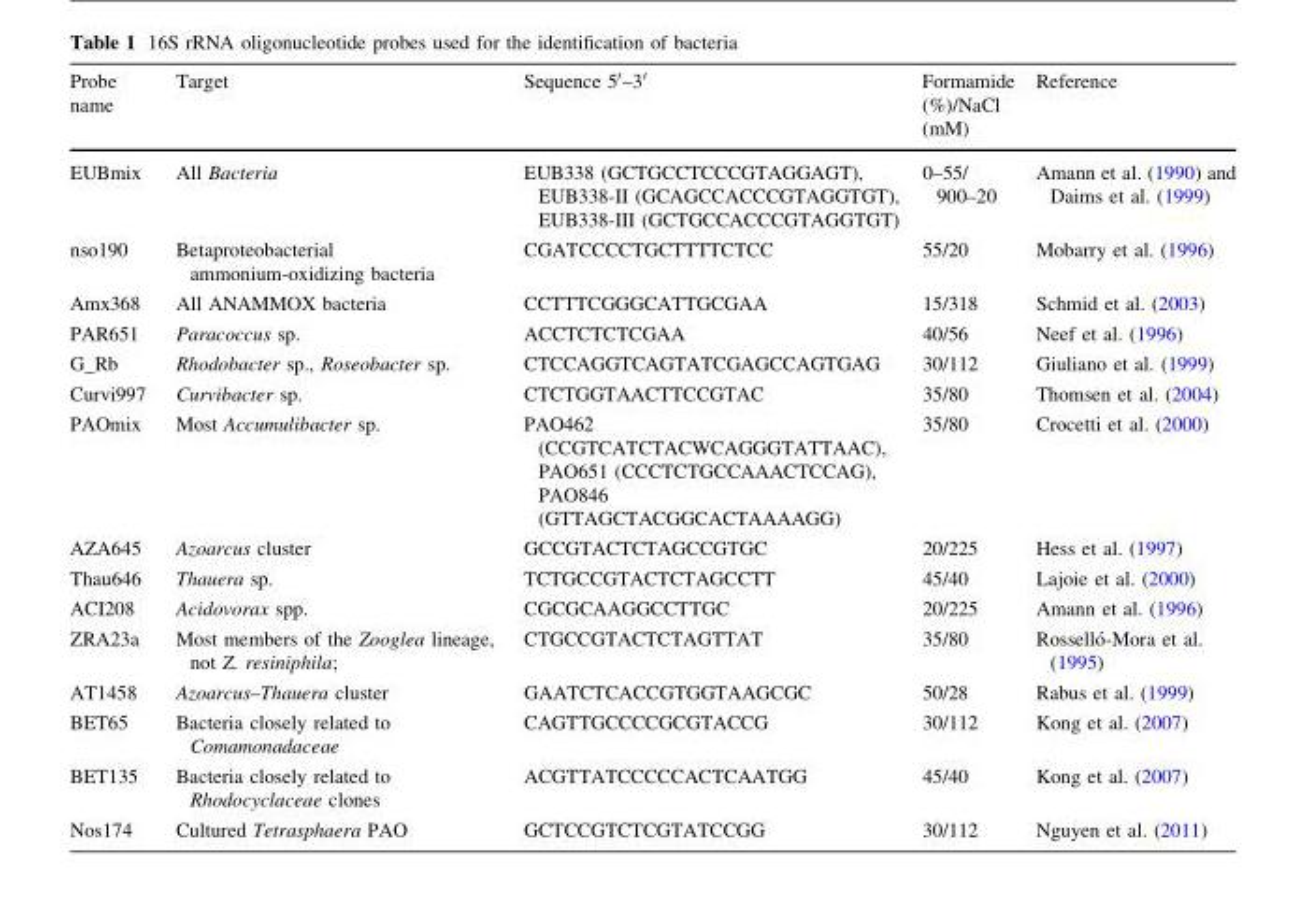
<table><thead><tr><td>Probe name</td><td>Target</td><td>Sequence 5′–3′</td><td>Formamide (%)/NaCl (mM)</td><td>Reference</td></tr></thead><tbody><tr><td>EUBmix</td><td>All Bacteria</td><td>EUB338 (GCTGCCTCCCGTAGGAGT), EUB338-II (GCAGCCACCCGTAGGTGT), EUB338-III (GCTGCCACCCGTAGGTGT)</td><td>0–55/ 900–20</td><td>Amann et al. (1990) and Daims et al. (1999)</td></tr><tr><td>nso190</td><td>Betaproteobacterial ammonium-oxidizing bacteria</td><td>CGATCCCCTGCTTTTCTCC</td><td>55/20</td><td>Mobarry et al. (1996)</td></tr><tr><td>Amx368</td><td>All ANAMMOX bacteria</td><td>CCTTTCGGGCATTGCGAA</td><td>15/318</td><td>Schmid et al. (2003)</td></tr><tr><td>PAR651</td><td>Paracoccus sp.</td><td>ACCTCTCTCGAA</td><td>40/56</td><td>Neef et al. (1996)</td></tr><tr><td>G_Rb</td><td>Rhodobacter sp., Roseobacter sp.</td><td>CTCCAGGTCAGTATCGAGCCAGTGAG</td><td>30/112</td><td>Giuliano et al. (1999)</td></tr><tr><td>Curvi997</td><td>Curvibacter sp.</td><td>CTCTGGTAACTTCCGTAC</td><td>35/80</td><td>Thomsen et al. (2004)</td></tr><tr><td>PAOmix</td><td>Most Accumulibacter sp.</td><td>PAO462 (CCGTCATCTACWCAGGGTATTAAC), PAO651 (CCCTCTGCCAAACTCCAG), PAO846 (GTTAGCTACGGCACTAAAAGG)</td><td>35/80</td><td>Crocetti et al. (2000)</td></tr><tr><td>AZA645</td><td>Azoarcus cluster</td><td>GCCGTACTCTAGCCGTGC</td><td>20/225</td><td>Hess et al. (1997)</td></tr><tr><td>Thau646</td><td>Thauera sp.</td><td>TCTGCCGTACTCTAGCCTT</td><td>45/40</td><td>Lajoie et al. (2000)</td></tr><tr><td>ACI208</td><td>Acidovorax spp.</td><td>CGCGCAAGGCCTTGC</td><td>20/225</td><td>Amann et al. (1996)</td></tr><tr><td>ZRA23a</td><td>Most members of the Zooglea lineage, not Z. resiniphila;</td><td>CTGCCGTACTCTAGTTAT</td><td>35/80</td><td>Rossello´-Mora et al. (1995)</td></tr><tr><td>AT1458</td><td>Azoarcus–Thauera cluster</td><td>GAATCTCACCGTGGTAAGCGC</td><td>50/28</td><td>Rabus et al. (1999)</td></tr><tr><td>BET65</td><td>Bacteria closely related to Comamonadaceae</td><td>CAGTTGCCCCGCGTACCG</td><td>30/112</td><td>Kong et al. (2007)</td></tr><tr><td>BET135</td><td>Bacteria closely related to Rhodocyclaceae clones</td><td>ACGTTATCCCCCACTCAATGG</td><td>45/40</td><td>Kong et al. (2007)</td></tr><tr><td>Nos174</td><td>Cultured Tetrasphaera PAO</td><td>GCTCCGTCTCGTATCCGG</td><td>30/112</td><td>Nguyen et al. (2011)</td></tr></tbody></table>